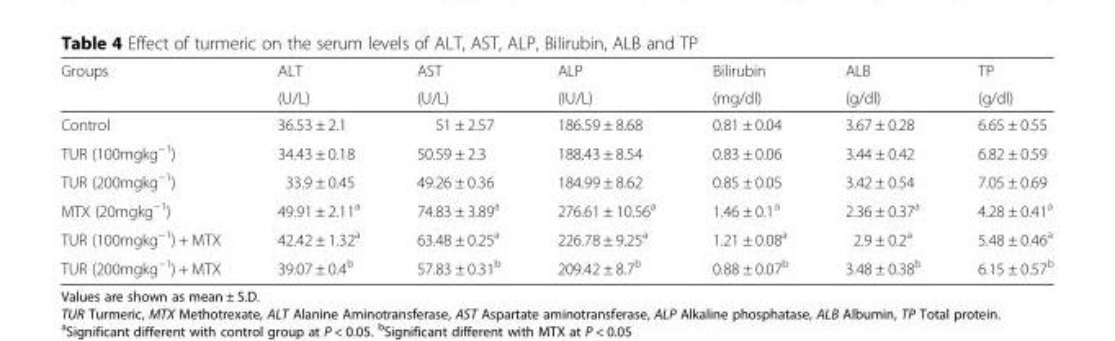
<table><thead><tr><td rowspan="2">Groups</td><td rowspan="2">ALT (U/L)</td><td rowspan="2">AST (U/L)</td><td rowspan="2">ALP (IU/L)</td><td rowspan="2">Bilirubin (mg/dl)</td><td rowspan="2">ALB (g/dl)</td><td rowspan="2">TP (g/dl)</td></tr><tr></tr></thead><tbody><tr><td>Control</td><td>36.53 ± 2.1</td><td>51 ± 2.57</td><td>186.59 ± 8.68</td><td>0.81 ± 0.04</td><td>3.67 ± 0.28</td><td>6.65 ± 0.55</td></tr><tr><td>TUR (100mgkg<sup>−1</sup>)</td><td>34.43 ± 0.18</td><td>50.59 ± 2.3</td><td>188.43 ± 8.54</td><td>0.83 ± 0.06</td><td>3.44 ± 0.42</td><td>6.82 ± 0.59</td></tr><tr><td>TUR (200mgkg<sup>−1</sup>)</td><td>33.9 ± 0.45</td><td>49.26 ± 0.36</td><td>184.99 ± 8.62</td><td>0.85 ± 0.05</td><td>3.42 ± 0.54</td><td>7.05 ± 0.69</td></tr><tr><td>MTX (20mgkg<sup>−1</sup>)</td><td>49.91 ± 2.11<sup>a</sup></td><td>74.83 ± 3.89<sup>a</sup></td><td>276.61 ± 10.56<sup>a</sup></td><td>1.46 ± 0.1<sup>a</sup></td><td>2.36 ± 0.37<sup>a</sup></td><td>4.28 ± 0.41<sup>a</sup></td></tr><tr><td>TUR (100mgkg<sup>−1</sup>) + MTX</td><td>42.42 ± 1.32<sup>a</sup></td><td>63.48 ± 0.25<sup>a</sup></td><td>226.78 ± 9.25<sup>a</sup></td><td>1.21 ± 0.08<sup>a</sup></td><td>2.9 ± 0.2<sup>a</sup></td><td>5.48 ± 0.46<sup>a</sup></td></tr><tr><td>TUR (200mgkg<sup>−1</sup>) + MTX</td><td>39.07 ± 0.4<sup>b</sup></td><td>57.83 ± 0.31<sup>b</sup></td><td>209.42 ± 8.7<sup>b</sup></td><td>0.88 ± 0.07<sup>b</sup></td><td>3.48 ± 0.38<sup>b</sup></td><td>6.15 ± 0.57<sup>b</sup></td></tr></tbody></table>